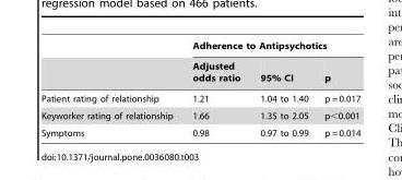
<table><thead><tr><td rowspan="2"></td><td colspan="3">Adherence to Antipsychotics</td></tr><tr><td>Adjusted odds ratio</td><td>95% CI</td><td>p</td></tr></thead><tbody><tr><td>Patient rating of relationship</td><td>1.21</td><td>1.04 to 1.40</td><td>p = 0.017</td></tr><tr><td>Keyworker rating of relationship</td><td>1.66</td><td>1.35 to 2.05</td><td>p&lt;0.001</td></tr><tr><td>Symptoms</td><td>0.98</td><td>0.97 to 0.99</td><td>p = 0.014</td></tr></tbody></table>